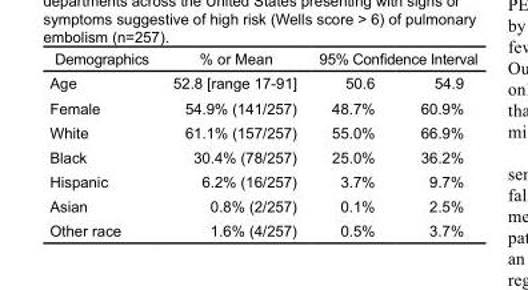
<table><thead><tr><td rowspan="2">Demographics Age</td><td rowspan="2">% or Mean 52.8 [range 17-91]</td><td colspan="2">95% Confidence Interval</td></tr><tr><td>50.6</td><td>54.9</td></tr></thead><tbody><tr><td>Female</td><td>54.9% (141/257)</td><td>48.7%</td><td>60.9%</td></tr><tr><td>White</td><td>61.1% (157/257)</td><td>55.0%</td><td>66.9%</td></tr><tr><td>Black</td><td>30.4% (78/257)</td><td>25.0%</td><td>36.2%</td></tr><tr><td>Hispanic</td><td>6.2% (16/257)</td><td>3.7%</td><td>9.7%</td></tr><tr><td>Asian</td><td>0.8% (2/257)</td><td>0.1%</td><td>2.5%</td></tr><tr><td>Other race</td><td>1.6% (4/257)</td><td>0.5%</td><td>3.7%</td></tr></tbody></table>